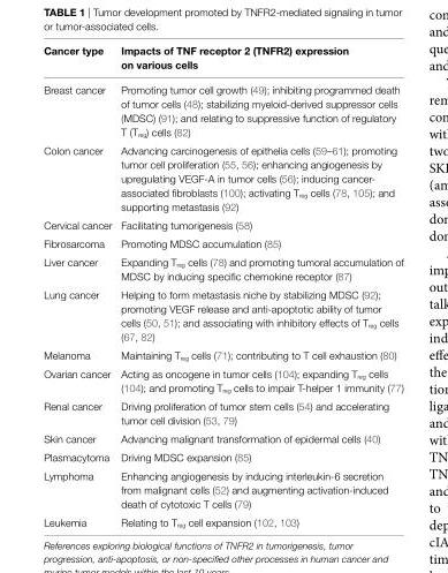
<table><thead><tr><td>Cancer type</td><td>impacts of TNF receptor 2 (TNFR2) expression on various cells</td></tr></thead><tbody><tr><td>Breast cancer</td><td>Promoting tumor cell growth (49); inhibiting programmed death of tumor cells (48); stabilizing myeloid-derived suppressor cells (MDSC) (91); and relating to suppressive function of regulatory T (T<sub>reg</sub>) cells (82)</td></tr><tr><td>Colon cancer</td><td>Advancing carcinogenesis of epithelia cells (59–61); promoting tumor cell proliferation (55, 56); enhancing angiogenesis by upregulating VEGF-A in tumor cells (56); inducing cancer- associated fibroblasts (100); activating T<sub>reg</sub> cells (78, 105); and supporting metastasis (92)</td></tr><tr><td>Cervical cancer</td><td>Facilitating tumorigenesis (58)</td></tr><tr><td>Fibrosarcoma</td><td>Promoting MDSC accumulation (85)</td></tr><tr><td>Liver cancer</td><td>Expanding T<sub>reg</sub> cells (78) and promoting tumoral accumulation of MDSC by inducing specific chemokine receptor (87)</td></tr><tr><td>Lung cancer</td><td>Helping to form metastasis niche by stabilizing MDSC (92); promoting VEGF release and anti-apoptotic ability of tumor cells (50, 51); and associating with inhibitory effects of T<sub>reg</sub> cells (67, 82)</td></tr><tr><td>Melanoma</td><td>Maintaining T<sub>reg</sub> cells (71); contributing to T cell exhaustion (80)</td></tr><tr><td>Ovarian cancer</td><td>Acting as oncogene in tumor cells (104); expanding T<sub>reg</sub> cells (104); and promoting T<sub>reg</sub> cells to impair T-helper 1 immunity (77)</td></tr><tr><td>Renal cancer</td><td>Driving proliferation of tumor stem cells (54) and accelerating tumor cell division (53, 79)</td></tr><tr><td>Skin cancer</td><td>Advancing malignant transformation of epidermal cells (40)</td></tr><tr><td>Plasmacytoma</td><td>Driving MDSC expansion (85)</td></tr><tr><td>Lymphoma</td><td>Enhancing angiogenesis by inducing interleukin-6 secretion from malignant cells (52) and augmenting activation-induced death of cytotoxic T cells (79)</td></tr><tr><td>Leukemia</td><td>Relating to T<sub>reg</sub> cell expansion (102, 103)</td></tr></tbody></table>